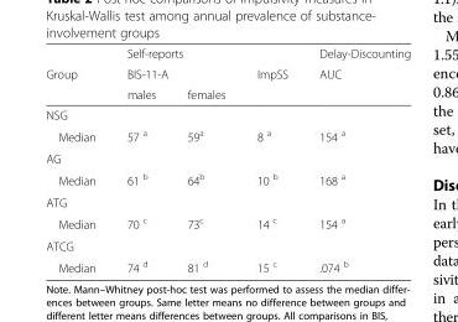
<table><thead><tr><td rowspan="3">Group</td><td colspan="3">Self-reports</td><td rowspan="3">Delay-Discounting AUC</td></tr><tr><td colspan="2">BIS-11-A</td><td rowspan="2">ImpSS</td></tr><tr><td>males</td><td>females</td></tr></thead><tbody><tr><td colspan="5">NSG</td></tr><tr><td>Median</td><td>57 <sup>a</sup></td><td>59<sup>a</sup></td><td>8 <sup>a</sup></td><td>154 <sup>a</sup></td></tr><tr><td colspan="5">AG</td></tr><tr><td>Median</td><td>61 <sup>b</sup></td><td>64<sup>b</sup></td><td>10 <sup>b</sup></td><td>168 <sup>a</sup></td></tr><tr><td colspan="5">ATG</td></tr><tr><td>Median</td><td>70 <sup>c</sup></td><td>73<sup>c</sup></td><td>14 <sup>c</sup></td><td>154 <sup>a</sup></td></tr><tr><td colspan="5">ATCG</td></tr><tr><td>Median</td><td>74 <sup>d</sup></td><td>81 <sup>d</sup></td><td>15 <sup>c</sup></td><td>.074 <sup>b</sup></td></tr></tbody></table>